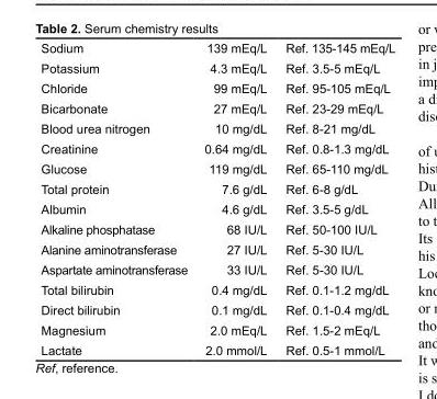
<table><tbody><tr><td>Sodium</td><td>139 mEq/L</td><td>Ref. 135-145 mEq/L</td></tr><tr><td>Potassium</td><td>4.3 mEq/L</td><td>Ref. 3.5-5 mEq/L</td></tr><tr><td>Chloride</td><td>99 mEq/L</td><td>Ref. 95-105 mEq/L</td></tr><tr><td>Bicarbonate</td><td>27 mEq/L</td><td>Ref. 23-29 mEq/L</td></tr><tr><td>Blood urea nitrogen</td><td>10 mg/dL</td><td>Ref. 8-21 mg/dL</td></tr><tr><td>Creatinine</td><td>0.64 mg/dL</td><td>Ref. 0.8-1.3 mg/dL</td></tr><tr><td>Glucose</td><td>119 mg/dL</td><td>Ref. 65-110 mg/dL</td></tr><tr><td>Total protein</td><td>7.6 g/dL</td><td>Ref. 6-8 g/dL</td></tr><tr><td>Albumin</td><td>4.6 g/dL</td><td>Ref. 3.5-5 g/dL</td></tr><tr><td>Alkaline phosphatase</td><td>68 IU/L</td><td>Ref. 50-100 IU/L</td></tr><tr><td>Alanine aminotransferase</td><td>27 IU/L</td><td>Ref. 5-30 IU/L</td></tr><tr><td>Aspartate aminotransferase</td><td>33 IU/L</td><td>Ref. 5-30 IU/L</td></tr><tr><td>Total bilirubin</td><td>0.4 mg/dL</td><td>Ref. 0.1-1.2 mg/dL</td></tr><tr><td>Direct bilirubin</td><td>0.1 mg/dL</td><td>Ref. 0.1-0.4 mg/dL</td></tr><tr><td>Magnesium</td><td>2.0 mEq/L</td><td>Ref. 1.5-2 mEq/L</td></tr><tr><td>Lactate</td><td>2.0 mmol/L</td><td>Ref. 0.5-1 mmol/L</td></tr></tbody></table>